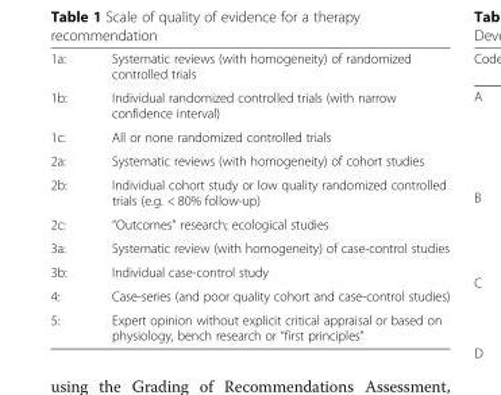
<table><tbody><tr><td>1a:</td><td>Systematic reviews (with homogeneity) of randomized controlled trials</td></tr><tr><td>1b:</td><td>Individual randomized controlled trials (with narrow confidence interval)</td></tr><tr><td>1c:</td><td>All or none randomized controlled trials</td></tr><tr><td>2a:</td><td>Systematic reviews (with homogeneity) of cohort studies</td></tr><tr><td>2b:</td><td>Individual cohort study or low quality randomized controlled trials (e.g. &lt; 80% follow-up)</td></tr><tr><td>2c:</td><td>“Outcomes” research; ecological studies</td></tr><tr><td>3a:</td><td>Systematic review (with homogeneity) of case-control studies</td></tr><tr><td>3b:</td><td>Individual case-control study</td></tr><tr><td>4:</td><td>Case-series (and poor quality cohort and case-control studies)</td></tr><tr><td>5:</td><td>Expert opinion without explicit critical appraisal or based on physiology, bench research or “first principles”</td></tr></tbody></table>